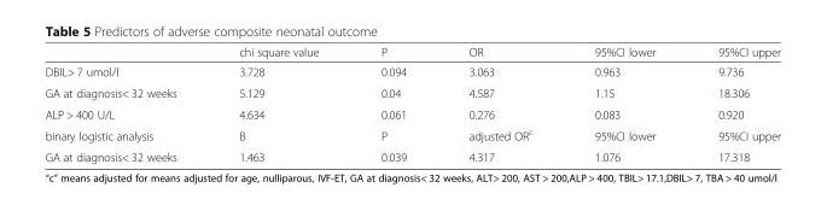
<table><thead><tr><td></td><td>chi square value</td><td>P</td><td>OR</td><td>95%CI lower</td><td>95%CI upper</td></tr></thead><tbody><tr><td>DBIL&gt; 7 umol/l</td><td>3.728</td><td>0.094</td><td>3.063</td><td>0.963</td><td>9.736</td></tr><tr><td>GA at diagnosis&lt; 32 weeks</td><td>5.129</td><td>0.04</td><td>4.587</td><td>1.15</td><td>18.306</td></tr><tr><td>ALP &gt; 400 U/L</td><td>4.634</td><td>0.061</td><td>0.276</td><td>0.083</td><td>0.920</td></tr><tr><td>binary logistic analysis</td><td>B</td><td>P</td><td>adjusted OR<sup>c</sup></td><td>95%CI lower</td><td>95%CI upper</td></tr><tr><td>GA at diagnosis&lt; 32 weeks</td><td>1.463</td><td>0.039</td><td>4.317</td><td>1.076</td><td>17.318</td></tr></tbody></table>